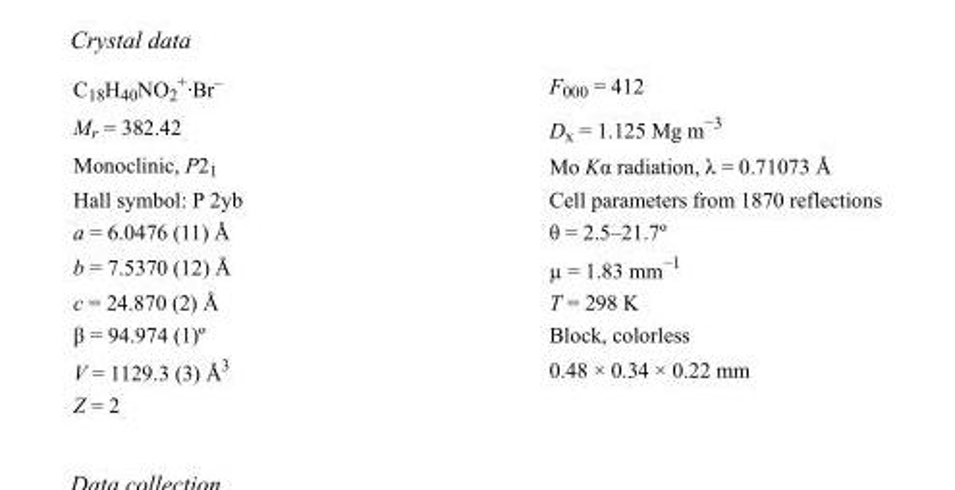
<table><tbody><tr><td>C<sub>18</sub>H<sub>40</sub>NO<sub>2</sub> <sup>+</sup>·Br<sup>–</sup></td><td>F000 = 412</td></tr><tr><td>M<sub>r</sub> = 382.42</td><td>D<sub>x</sub> = 1.125 Mg m<sup>−3</sup></td></tr><tr><td>Monoclinic, P2<sub>1</sub></td><td>Mo Kα radiation, λ = 0.71073 Å</td></tr><tr><td>Hall symbol: P 2yb</td><td>Cell parameters from 1870 reflections</td></tr><tr><td>a = 6.0476 (11) Å</td><td>θ = 2.5–21.7º</td></tr><tr><td>b = 7.5370 (12) Å</td><td>µ = 1.83 mm<sup>−1</sup></td></tr><tr><td>c = 24.870 (2) Å</td><td>T = 298 K</td></tr><tr><td>β = 94.974 (1)º</td><td>Block, colorless</td></tr><tr><td>V = 1129.3 (3) Å<sup>3</sup></td><td>0.48 × 0.34 × 0.22 mm</td></tr><tr><td>Z = 2</td><td></td></tr></tbody></table>